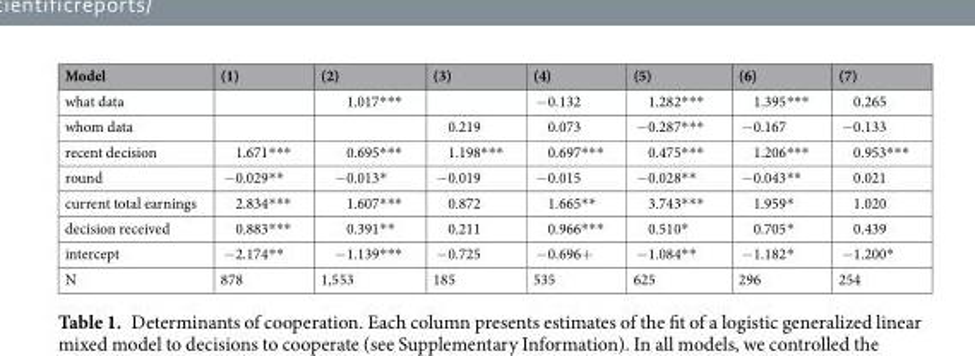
<table><thead><tr><td>Model</td><td>(1)</td><td>(2)</td><td>(3)</td><td>(4)</td><td>(5)</td><td>(6)</td><td>(7)</td></tr></thead><tbody><tr><td>what data</td><td></td><td>1.017***</td><td></td><td>−0.132</td><td>1.282***</td><td>1.395***</td><td>0.265</td></tr><tr><td>whom data</td><td></td><td></td><td>0.219</td><td>0.073</td><td>−0.287***</td><td>−0.167</td><td>−0.133</td></tr><tr><td>recent decision</td><td>1.671***</td><td>0.695***</td><td>1.198***</td><td>0.697***</td><td>0.475***</td><td>1.206***</td><td>0.953***</td></tr><tr><td>round</td><td>−0.029**</td><td>−0.013*</td><td>−0.019</td><td>−0.015</td><td>−0.028**</td><td>−0.043**</td><td>0.021</td></tr><tr><td>current total earnings</td><td>2.834***</td><td>1.607***</td><td>0.872</td><td>1.665**</td><td>3.743***</td><td>1.959*</td><td>1.020</td></tr><tr><td>decision received</td><td>0.883***</td><td>0.391**</td><td>0.211</td><td>0.966***</td><td>0.510*</td><td>0.705*</td><td>0.439</td></tr><tr><td>intercept</td><td>−2.174**</td><td>−1.139***</td><td>−0.725</td><td>−0.696+</td><td>−1.084**</td><td>−1.182*</td><td>−1.200*</td></tr><tr><td>N</td><td>878</td><td>1,553</td><td>185</td><td>535</td><td>625</td><td>296</td><td>254</td></tr></tbody></table>